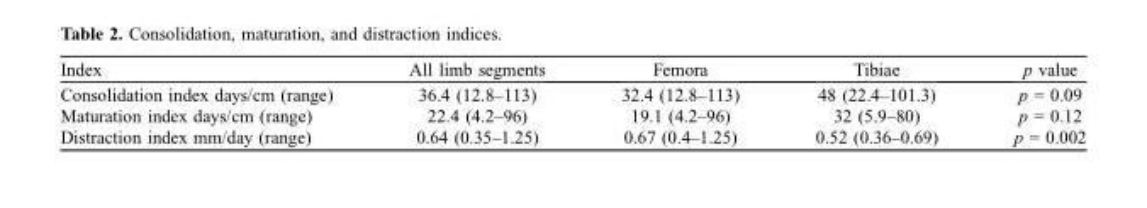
<table><thead><tr><td>Index</td><td>All limb segments</td><td>Femora</td><td>Tibiae</td><td>p value</td></tr></thead><tbody><tr><td>Consolidation index days/cm (range)</td><td>36.4 (12.8–113)</td><td>32.4 (12.8–113)</td><td>48 (22.4–101.3)</td><td>p = 0.09</td></tr><tr><td>Maturation index days/cm (range)</td><td>22.4 (4.2–96)</td><td>19.1 (4.2–96)</td><td>32 (5.9–80)</td><td>p = 0.12</td></tr><tr><td>Distraction index mm/day (range)</td><td>0.64 (0.35–1.25)</td><td>0.67 (0.4–1.25)</td><td>0.52 (0.36–0.69)</td><td>p = 0.002</td></tr></tbody></table>